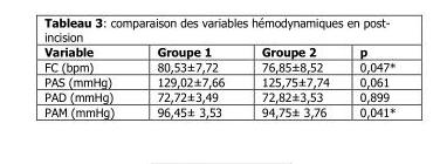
<table><thead><tr><td>Variable</td><td>Groupe 1</td><td>Groupe 2</td><td>p</td></tr></thead><tbody><tr><td>FC (bpm)</td><td>80,53±7,72</td><td>76,85±8,52</td><td>0,047*</td></tr><tr><td>PAS (mmHg)</td><td>129,02±7,66</td><td>125,75±7,74</td><td>0,061</td></tr><tr><td>PAD (mmHg)</td><td>72,72±3,49</td><td>72,82±3,53</td><td>0,899</td></tr><tr><td>PAM (mmHg)</td><td>96,45± 3,53</td><td>94,75± 3,76</td><td>0,041*</td></tr></tbody></table>